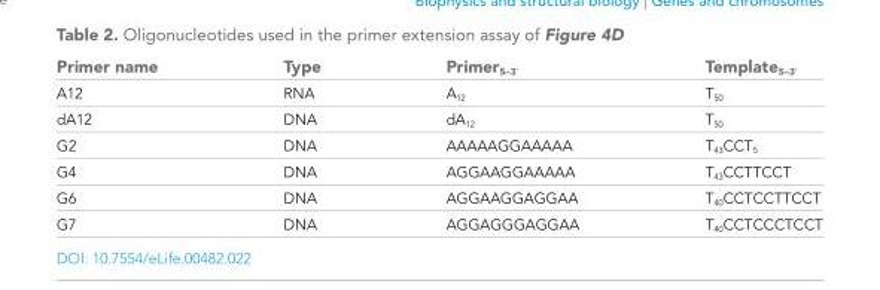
<table><thead><tr><td>Primer name</td><td>Type</td><td>Primer<sub>5–3′</sub></td><td>Template<sub>5–3′</sub></td></tr></thead><tbody><tr><td>A12</td><td>RNA</td><td>A<sub>12</sub></td><td>T<sub>50</sub></td></tr><tr><td>dA12</td><td>DNA</td><td>dA<sub>12</sub></td><td>T<sub>50</sub></td></tr><tr><td>G2</td><td>DNA</td><td>AAAAAGGAAAAA</td><td>T<sub>43</sub>CCT<sub>5</sub></td></tr><tr><td>G4</td><td>DNA</td><td>AGGAAGGAAAAA</td><td>T<sub>43</sub>CCTTCCT</td></tr><tr><td>G6</td><td>DNA</td><td>AGGAAGGAGGAA</td><td>T<sub>40</sub>CCTCCTTCCT</td></tr><tr><td>G7</td><td>DNA</td><td>AGGAGGGAGGAA</td><td>T<sub>40</sub>CCTCCCTCCT</td></tr></tbody></table>